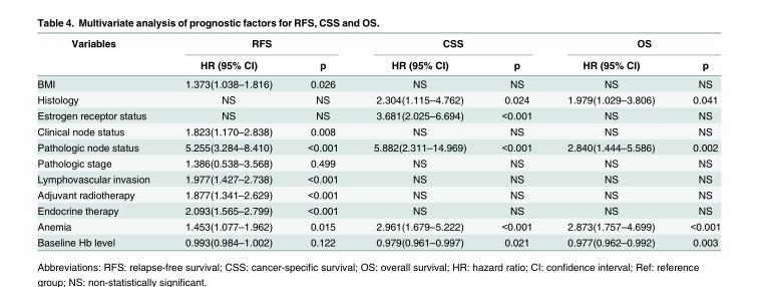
<table><thead><tr><td rowspan="2">Variables</td><td colspan="2">RFS</td><td colspan="2">CSS</td><td colspan="2">OS</td></tr><tr><td>HR (95% CI)</td><td>p</td><td>HR (95% CI)</td><td>p</td><td>HR (95% CI)</td><td>p</td></tr></thead><tbody><tr><td>BMI</td><td>1.373(1.038–1.816)</td><td>0.026</td><td>NS</td><td>NS</td><td>NS</td><td>NS</td></tr><tr><td>Histology</td><td>NS</td><td>NS</td><td>2.304(1.115–4.762)</td><td>0.024</td><td>1.979(1.029–3.806)</td><td>0.041</td></tr><tr><td>Estrogen receptor status</td><td>NS</td><td>NS</td><td>3.681(2.025–6.694)</td><td>&lt;0.001</td><td>NS</td><td>NS</td></tr><tr><td>Clinical node status</td><td>1.823(1.170–2.838)</td><td>0.008</td><td>NS</td><td>NS</td><td>NS</td><td>NS</td></tr><tr><td>Pathologic node status</td><td>5.255(3.284–8.410)</td><td>&lt;0.001</td><td>5.882(2.311–14.969)</td><td>&lt;0.001</td><td>2.840(1.444–5.586)</td><td>0.002</td></tr><tr><td>Pathologic stage</td><td>1.386(0.538–3.568)</td><td>0.499</td><td>NS</td><td>NS</td><td>NS</td><td>NS</td></tr><tr><td>Lymphovascular invasion</td><td>1.977(1.427–2.738)</td><td>&lt;0.001</td><td>NS</td><td>NS</td><td>NS</td><td>NS</td></tr><tr><td>Adjuvant radiotherapy</td><td>1.877(1.341–2.629)</td><td>&lt;0.001</td><td>NS</td><td>NS</td><td>NS</td><td>NS</td></tr><tr><td>Endocrine therapy</td><td>2.093(1.565–2.799)</td><td>&lt;0.001</td><td>NS</td><td>NS</td><td>NS</td><td>NS</td></tr><tr><td>Anemia</td><td>1.453(1.077–1.962)</td><td>0.015</td><td>2.961(1.679–5.222)</td><td>&lt;0.001</td><td>2.873(1.757–4.699)</td><td>&lt;0.001</td></tr><tr><td>Baseline Hb level</td><td>0.993(0.984–1.002)</td><td>0.122</td><td>0.979(0.961–0.997)</td><td>0.021</td><td>0.977(0.962–0.992)</td><td>0.003</td></tr></tbody></table>